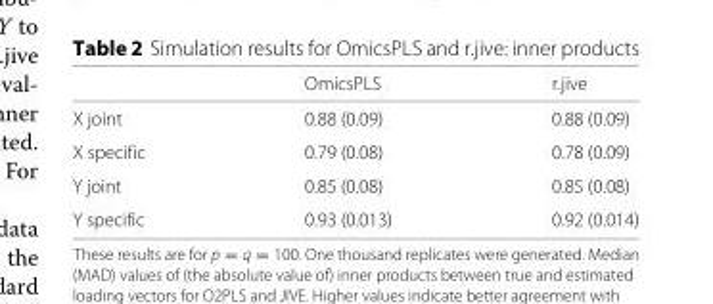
<table><thead><tr><td></td><td>OmicsPLS</td><td>r.jive</td></tr></thead><tbody><tr><td>X joint</td><td>0.88 (0.09)</td><td>0.88 (0.09)</td></tr><tr><td>X specific</td><td>0.79 (0.08)</td><td>0.78 (0.09)</td></tr><tr><td>Y joint</td><td>0.85 (0.08)</td><td>0.85 (0.08)</td></tr><tr><td>Y specific</td><td>0.93 (0.013)</td><td>0.92 (0.014)</td></tr></tbody></table>